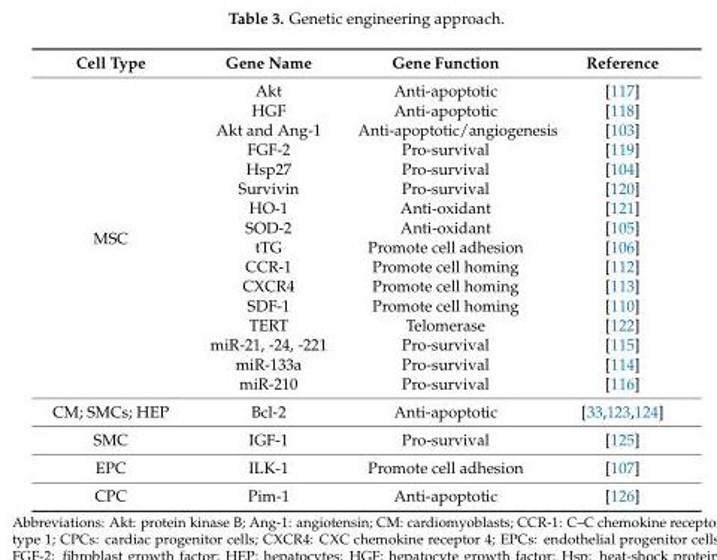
<table><thead><tr><td>Cell Type</td><td>Gene Name</td><td>Gene Function</td><td>Reference</td></tr></thead><tbody><tr><td rowspan="16">MSC</td><td>Akt</td><td>Anti-apoptotic</td><td>[117]</td></tr><tr><td>HGF</td><td>Anti-apoptotic</td><td>[118]</td></tr><tr><td>Akt and Ang-1</td><td>Anti-apoptotic/angiogenesis</td><td>[103]</td></tr><tr><td>FGF-2</td><td>Pro-survival</td><td>[119]</td></tr><tr><td>Hsp27</td><td>Pro-survival</td><td>[104]</td></tr><tr><td>Survivin</td><td>Pro-survival</td><td>[120]</td></tr><tr><td>HO-1</td><td>Anti-oxidant</td><td>[121]</td></tr><tr><td>SOD-2</td><td>Anti-oxidant</td><td>[105]</td></tr><tr><td>tTG</td><td>Promote cell adhesion</td><td>[106]</td></tr><tr><td>CCR-1</td><td>Promote cell homing</td><td>[112]</td></tr><tr><td>CXCR4</td><td>Promote cell homing</td><td>[113]</td></tr><tr><td>SDF-1</td><td>Promote cell homing</td><td>[110]</td></tr><tr><td>TERT</td><td>Telomerase</td><td>[122]</td></tr><tr><td>miR-21, -24, -221</td><td>Pro-survival</td><td>[115]</td></tr><tr><td>miR-133a</td><td>Pro-survival</td><td>[114]</td></tr><tr><td>miR-210</td><td>Pro-survival</td><td>[116]</td></tr><tr><td>CM; SMCs; HEP</td><td>Bcl-2</td><td>Anti-apoptotic</td><td>[33,123,124]</td></tr><tr><td>SMC</td><td>IGF-1</td><td>Pro-survival</td><td>[125]</td></tr><tr><td>EPC</td><td>ILK-1</td><td>Promote cell adhesion</td><td>[107]</td></tr><tr><td>CPC</td><td>Pim-1</td><td>Anti-apoptotic</td><td>[126]</td></tr></tbody></table>